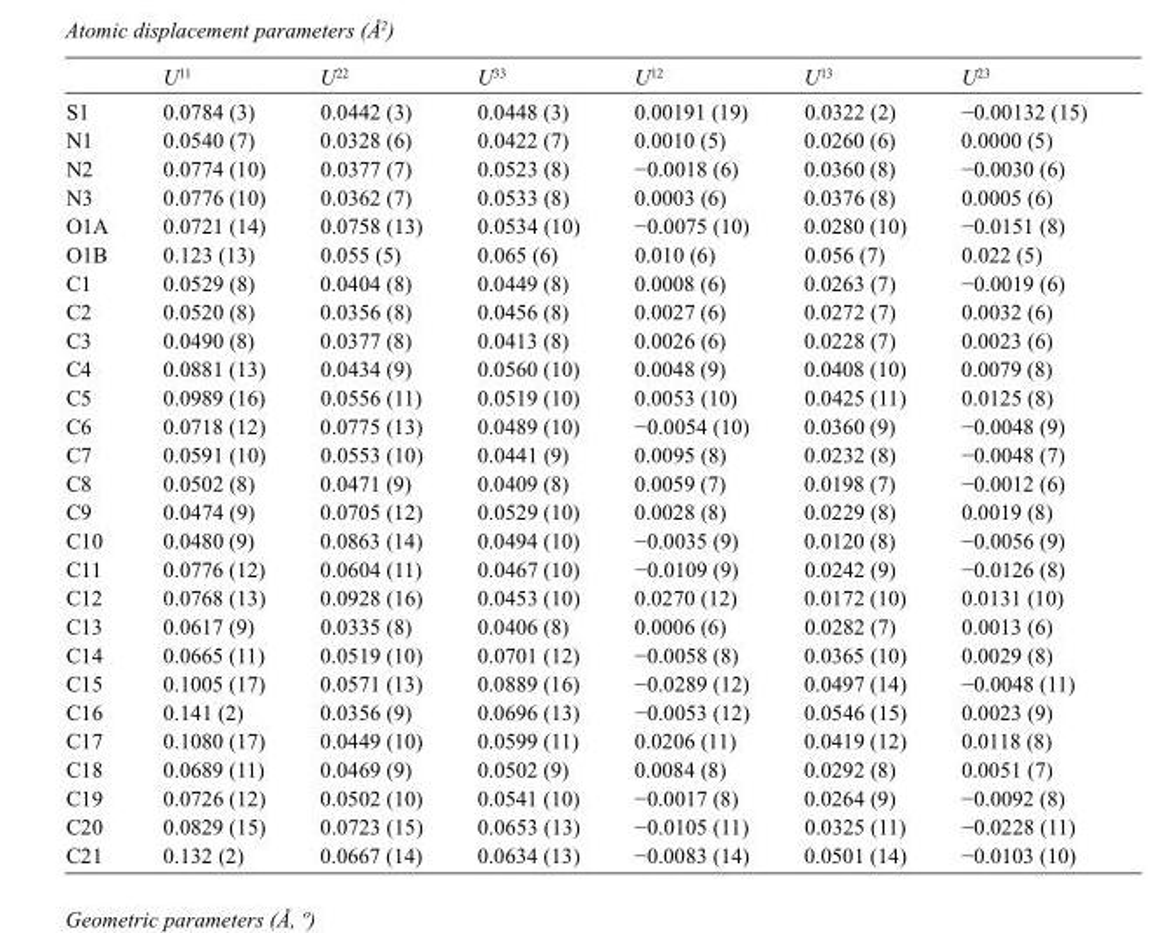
<table><thead><tr><td></td><td>U<sup>11</sup></td><td>U<sup>22</sup></td><td>U<sup>33</sup></td><td>U<sup>12</sup></td><td>U<sup>13</sup></td><td>U<sup>23</sup></td></tr></thead><tbody><tr><td>S1</td><td>0.0784 (3)</td><td>0.0442 (3)</td><td>0.0448 (3)</td><td>0.00191 (19)</td><td>0.0322 (2)</td><td>−0.00132 (15)</td></tr><tr><td>N1</td><td>0.0540 (7)</td><td>0.0328 (6)</td><td>0.0422 (7)</td><td>0.0010 (5)</td><td>0.0260 (6)</td><td>0.0000 (5)</td></tr><tr><td>N2</td><td>0.0774 (10)</td><td>0.0377 (7)</td><td>0.0523 (8)</td><td>−0.0018 (6)</td><td>0.0360 (8)</td><td>−0.0030 (6)</td></tr><tr><td>N3</td><td>0.0776 (10)</td><td>0.0362 (7)</td><td>0.0533 (8)</td><td>0.0003 (6)</td><td>0.0376 (8)</td><td>0.0005 (6)</td></tr><tr><td>O1A</td><td>0.0721 (14)</td><td>0.0758 (13)</td><td>0.0534 (10)</td><td>−0.0075 (10)</td><td>0.0280 (10)</td><td>−0.0151 (8)</td></tr><tr><td>O1B</td><td>0.123 (13)</td><td>0.055 (5)</td><td>0.065 (6)</td><td>0.010 (6)</td><td>0.056 (7)</td><td>0.022 (5)</td></tr><tr><td>C1</td><td>0.0529 (8)</td><td>0.0404 (8)</td><td>0.0449 (8)</td><td>0.0008 (6)</td><td>0.0263 (7)</td><td>−0.0019 (6)</td></tr><tr><td>C2</td><td>0.0520 (8)</td><td>0.0356 (8)</td><td>0.0456 (8)</td><td>0.0027 (6)</td><td>0.0272 (7)</td><td>0.0032 (6)</td></tr><tr><td>C3</td><td>0.0490 (8)</td><td>0.0377 (8)</td><td>0.0413 (8)</td><td>0.0026 (6)</td><td>0.0228 (7)</td><td>0.0023 (6)</td></tr><tr><td>C4</td><td>0.0881 (13)</td><td>0.0434 (9)</td><td>0.0560 (10)</td><td>0.0048 (9)</td><td>0.0408 (10)</td><td>0.0079 (8)</td></tr><tr><td>C5</td><td>0.0989 (16)</td><td>0.0556 (11)</td><td>0.0519 (10)</td><td>0.0053 (10)</td><td>0.0425 (11)</td><td>0.0125 (8)</td></tr><tr><td>C6</td><td>0.0718 (12)</td><td>0.0775 (13)</td><td>0.0489 (10)</td><td>−0.0054 (10)</td><td>0.0360 (9)</td><td>−0.0048 (9)</td></tr><tr><td>C7</td><td>0.0591 (10)</td><td>0.0553 (10)</td><td>0.0441 (9)</td><td>0.0095 (8)</td><td>0.0232 (8)</td><td>−0.0048 (7)</td></tr><tr><td>C8</td><td>0.0502 (8)</td><td>0.0471 (9)</td><td>0.0409 (8)</td><td>0.0059 (7)</td><td>0.0198 (7)</td><td>−0.0012 (6)</td></tr><tr><td>C9</td><td>0.0474 (9)</td><td>0.0705 (12)</td><td>0.0529 (10)</td><td>0.0028 (8)</td><td>0.0229 (8)</td><td>0.0019 (8)</td></tr><tr><td>C10</td><td>0.0480 (9)</td><td>0.0863 (14)</td><td>0.0494 (10)</td><td>−0.0035 (9)</td><td>0.0120 (8)</td><td>−0.0056 (9)</td></tr><tr><td>C11</td><td>0.0776 (12)</td><td>0.0604 (11)</td><td>0.0467 (10)</td><td>−0.0109 (9)</td><td>0.0242 (9)</td><td>−0.0126 (8)</td></tr><tr><td>C12</td><td>0.0768 (13)</td><td>0.0928 (16)</td><td>0.0453 (10)</td><td>0.0270 (12)</td><td>0.0172 (10)</td><td>0.0131 (10)</td></tr><tr><td>C13</td><td>0.0617 (9)</td><td>0.0335 (8)</td><td>0.0406 (8)</td><td>0.0006 (6)</td><td>0.0282 (7)</td><td>0.0013 (6)</td></tr><tr><td>C14</td><td>0.0665 (11)</td><td>0.0519 (10)</td><td>0.0701 (12)</td><td>−0.0058 (8)</td><td>0.0365 (10)</td><td>0.0029 (8)</td></tr><tr><td>C15</td><td>0.1005 (17)</td><td>0.0571 (13)</td><td>0.0889 (16)</td><td>−0.0289 (12)</td><td>0.0497 (14)</td><td>−0.0048 (11)</td></tr><tr><td>C16</td><td>0.141 (2)</td><td>0.0356 (9)</td><td>0.0696 (13)</td><td>−0.0053 (12)</td><td>0.0546 (15)</td><td>0.0023 (9)</td></tr><tr><td>C17</td><td>0.1080 (17)</td><td>0.0449 (10)</td><td>0.0599 (11)</td><td>0.0206 (11)</td><td>0.0419 (12)</td><td>0.0118 (8)</td></tr><tr><td>C18</td><td>0.0689 (11)</td><td>0.0469 (9)</td><td>0.0502 (9)</td><td>0.0084 (8)</td><td>0.0292 (8)</td><td>0.0051 (7)</td></tr><tr><td>C19</td><td>0.0726 (12)</td><td>0.0502 (10)</td><td>0.0541 (10)</td><td>−0.0017 (8)</td><td>0.0264 (9)</td><td>−0.0092 (8)</td></tr><tr><td>C20</td><td>0.0829 (15)</td><td>0.0723 (15)</td><td>0.0653 (13)</td><td>−0.0105 (11)</td><td>0.0325 (11)</td><td>−0.0228 (11)</td></tr><tr><td>C21</td><td>0.132 (2)</td><td>0.0667 (14)</td><td>0.0634 (13)</td><td>−0.0083 (14)</td><td>0.0501 (14)</td><td>−0.0103 (10)</td></tr></tbody></table>